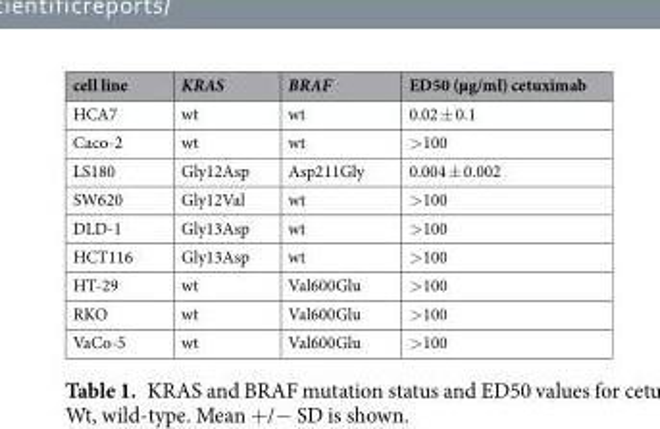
<table><thead><tr><td>cell line</td><td>KRAS</td><td>BRAF</td><td>ED50 (µg/ml) cetuximab</td></tr></thead><tbody><tr><td>HCA7</td><td>wt</td><td>wt</td><td>0.02 ± 0.1</td></tr><tr><td>Caco-2</td><td>wt</td><td>wt</td><td>&gt;100</td></tr><tr><td>LS180</td><td>Gly12Asp</td><td>Asp211Gly</td><td>0.004 ± 0.002</td></tr><tr><td>SW620</td><td>Gly12Val</td><td>wt</td><td>&gt;100</td></tr><tr><td>DLD-1</td><td>Gly13Asp</td><td>wt</td><td>&gt;100</td></tr><tr><td>HCT116</td><td>Gly13Asp</td><td>wt</td><td>&gt;100</td></tr><tr><td>HT-29</td><td>wt</td><td>Val600Glu</td><td>&gt;100</td></tr><tr><td>RKO</td><td>wt</td><td>Val600Glu</td><td>&gt;100</td></tr><tr><td>VaCo-5</td><td>wt</td><td>Val600Glu</td><td>&gt;100</td></tr></tbody></table>